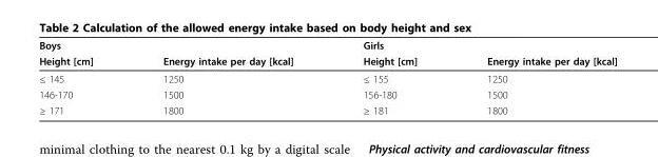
<table><thead><tr><td colspan="2">Boys</td><td colspan="2">Girls</td></tr><tr><td>Height [cm]</td><td>Energy intake per day [kcal]</td><td>Height [cm]</td><td>Energy intake per day [kcal]</td></tr></thead><tbody><tr><td>≤ 145</td><td>1250</td><td>≤ 155</td><td>1250</td></tr><tr><td>146-170</td><td>1500</td><td>156-180</td><td>1500</td></tr><tr><td>≥ 171</td><td>1800</td><td>≥ 181</td><td>1800</td></tr></tbody></table>